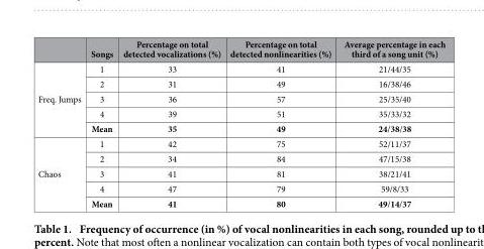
<table><thead><tr><td></td><td>Songs</td><td>Percentage on total detected vocalizations (%)</td><td>Percentage on total detected nonlinearities (%)</td><td>Average percentage in each third of a song unit (%)</td></tr></thead><tbody><tr><td rowspan="5">Freq. Jumps</td><td>1</td><td>33</td><td>41</td><td>21/44/35</td></tr><tr><td>2</td><td>31</td><td>49</td><td>16/38/46</td></tr><tr><td>3</td><td>36</td><td>57</td><td>25/35/40</td></tr><tr><td>4</td><td>39</td><td>51</td><td>35/33/32</td></tr><tr><td>Mean</td><td>35</td><td>49</td><td>24/38/38</td></tr><tr><td rowspan="5">Chaos</td><td>1</td><td>42</td><td>75</td><td>52/11/37</td></tr><tr><td>2</td><td>34</td><td>84</td><td>47/15/38</td></tr><tr><td>3</td><td>41</td><td>81</td><td>38/21/41</td></tr><tr><td>4</td><td>47</td><td>79</td><td>59/8/33</td></tr><tr><td>Mean</td><td>41</td><td>80</td><td>49/14/37</td></tr></tbody></table>